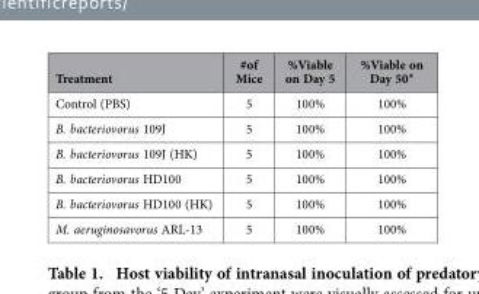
<table><thead><tr><td>Treatment</td><td>#of Mice</td><td>%Viable on Day 5</td><td>%Viable on Day 50*</td></tr></thead><tbody><tr><td>Control (PBS)</td><td>5</td><td>100%</td><td>100%</td></tr><tr><td>B. bacteriovorus 109J</td><td>5</td><td>100%</td><td>100%</td></tr><tr><td>B. bacteriovorus 109J (HK)</td><td>5</td><td>100%</td><td>100%</td></tr><tr><td>B. bacteriovorus HD100</td><td>5</td><td>100%</td><td>100%</td></tr><tr><td>B. bacteriovorus HD100 (HK)</td><td>5</td><td>100%</td><td>100%</td></tr><tr><td>M. aeruginosavorus ARL-13</td><td>5</td><td>100%</td><td>100%</td></tr></tbody></table>